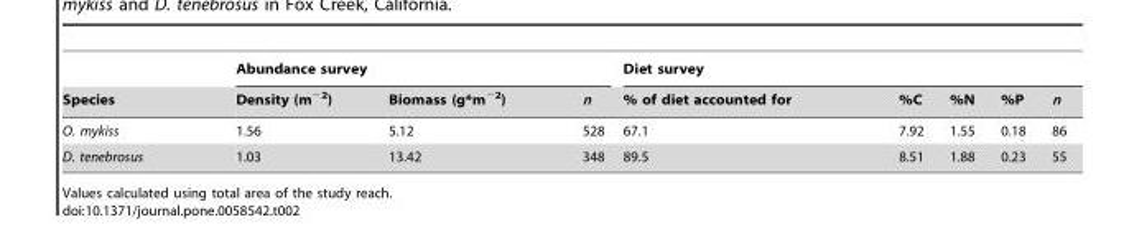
<table><thead><tr><td rowspan="2">Species</td><td colspan="3">Abundance survey</td><td colspan="5">Diet survey</td></tr><tr><td>Density (m<sup>−2</sup>)</td><td>Biomass (g*m<sup>−2</sup>)</td><td>n</td><td>% of diet accounted for</td><td>%C</td><td>%N</td><td>%P</td><td>n</td></tr></thead><tbody><tr><td>O. mykiss</td><td>1.56</td><td>5.12</td><td>528</td><td>67.1</td><td>7.92</td><td>1.55</td><td>0.18</td><td>86</td></tr><tr><td>D. tenebrosus</td><td>1.03</td><td>13.42</td><td>348</td><td>89.5</td><td>8.51</td><td>1.88</td><td>0.23</td><td>55</td></tr></tbody></table>